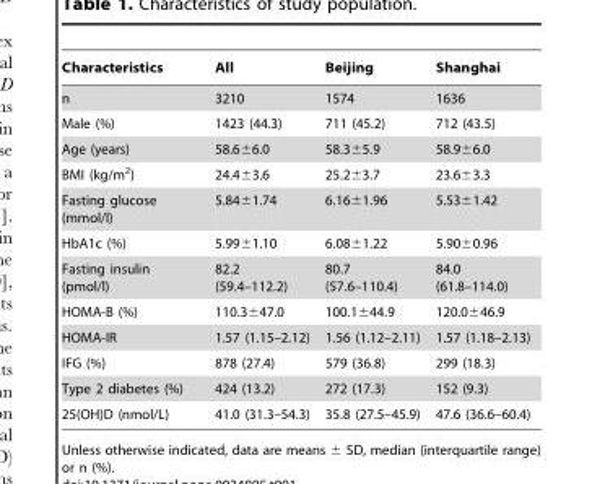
<table><thead><tr><td>Characteristics</td><td>All</td><td>Beijing</td><td>Shanghai</td></tr></thead><tbody><tr><td>n</td><td>3210</td><td>1574</td><td>1636</td></tr><tr><td>Male (%)</td><td>1423 (44.3)</td><td>711 (45.2)</td><td>712 (43.5)</td></tr><tr><td>Age (years)</td><td>58.6±6.0</td><td>58.3±5.9</td><td>58.9±6.0</td></tr><tr><td>BMI (kg/m<sup>2</sup>)</td><td>24.4±3.6</td><td>25.2±3.7</td><td>23.6±3.3</td></tr><tr><td>Fasting glucose (mmol/l)</td><td>5.84±1.74</td><td>6.16±1.96</td><td>5.53±1.42</td></tr><tr><td>HbA1c (%)</td><td>5.99±1.10</td><td>6.08±1.22</td><td>5.90±0.96</td></tr><tr><td>Fasting insulin (pmol/l)</td><td>82.2 (59.4–112.2)</td><td>80.7 (57.6–110.4)</td><td>84.0 (61.8–114.0)</td></tr><tr><td>HOMA-B (%)</td><td>110.3±47.0</td><td>100.1±44.9</td><td>120.0±46.9</td></tr><tr><td>HOMA-IR</td><td>1.57 (1.15–2.12)</td><td>1.56 (1.12–2.11)</td><td>1.57 (1.18–2.13)</td></tr><tr><td>IFG (%)</td><td>878 (27.4)</td><td>579 (36.8)</td><td>299 (18.3)</td></tr><tr><td>Type 2 diabetes (%)</td><td>424 (13.2)</td><td>272 (17.3)</td><td>152 (9.3)</td></tr><tr><td>25(OH)D (nmol/L)</td><td>41.0 (31.3–54.3)</td><td>35.8 (27.5–45.9)</td><td>47.6 (36.6–60.4)</td></tr></tbody></table>